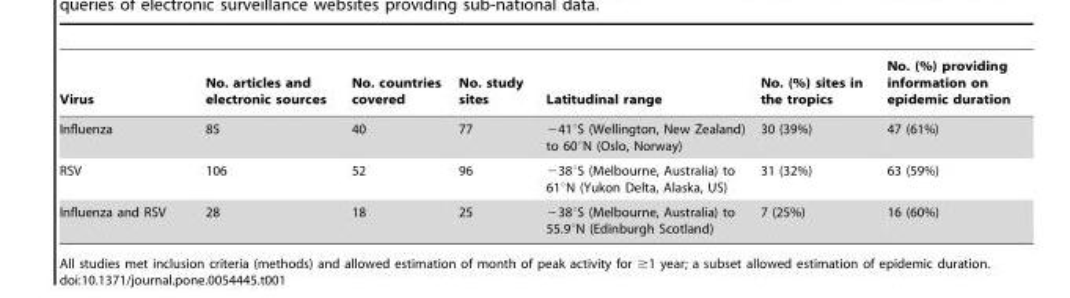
<table><thead><tr><td>Virus</td><td>No. articles and electronic sources</td><td>No. countries covered</td><td>No. study sites</td><td>Latitudinal range</td><td>No. (%) sites in the tropics</td><td>No. (%) providing information on epidemic duration</td></tr></thead><tbody><tr><td>Influenza</td><td>85</td><td>40</td><td>77</td><td>−41°S (Wellington, New Zealand) to 60°N (Oslo, Norway)</td><td>30 (39%)</td><td>47 (61%)</td></tr><tr><td>RSV</td><td>106</td><td>52</td><td>96</td><td>−38°S (Melbourne, Australia) to 61°N (Yukon Delta, Alaska, US)</td><td>31 (32%)</td><td>63 (59%)</td></tr><tr><td>Influenza and RSV</td><td>28</td><td>18</td><td>25</td><td>−38°S (Melbourne, Australia) to 55.9°N (Edinburgh Scotland)</td><td>7 (25%)</td><td>16 (60%)</td></tr></tbody></table>